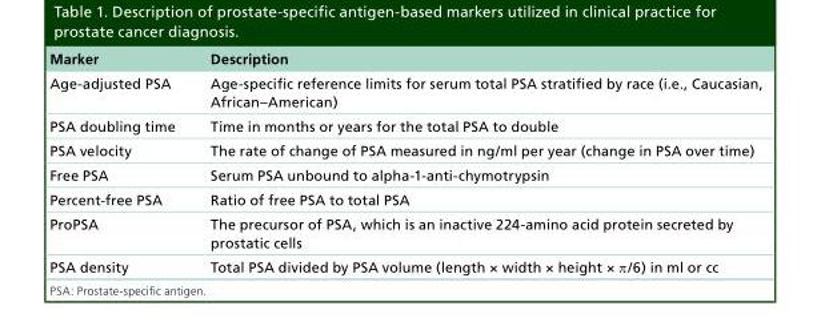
<table><thead><tr><td>Marker</td><td>Description</td></tr></thead><tbody><tr><td>Age-adjusted PSA</td><td>Age-specific reference limits for serum total PSA stratified by race (i.e., Caucasian, African–American)</td></tr><tr><td>PSA doubling time</td><td>Time in months or years for the total PSA to double</td></tr><tr><td>PSA velocity</td><td>The rate of change of PSA measured in ng/ml per year (change in PSA over time)</td></tr><tr><td>Free PSA</td><td>Serum PSA unbound to alpha-1-anti-chymotrypsin</td></tr><tr><td>Percent-free PSA</td><td>Ratio of free PSA to total PSA</td></tr><tr><td>ProPSA</td><td>The precursor of PSA, which is an inactive 224-amino acid protein secreted by prostatic cells</td></tr><tr><td>PSA density</td><td>Total PSA divided by PSA volume (length × width × height × π/6) in ml or cc</td></tr></tbody></table>